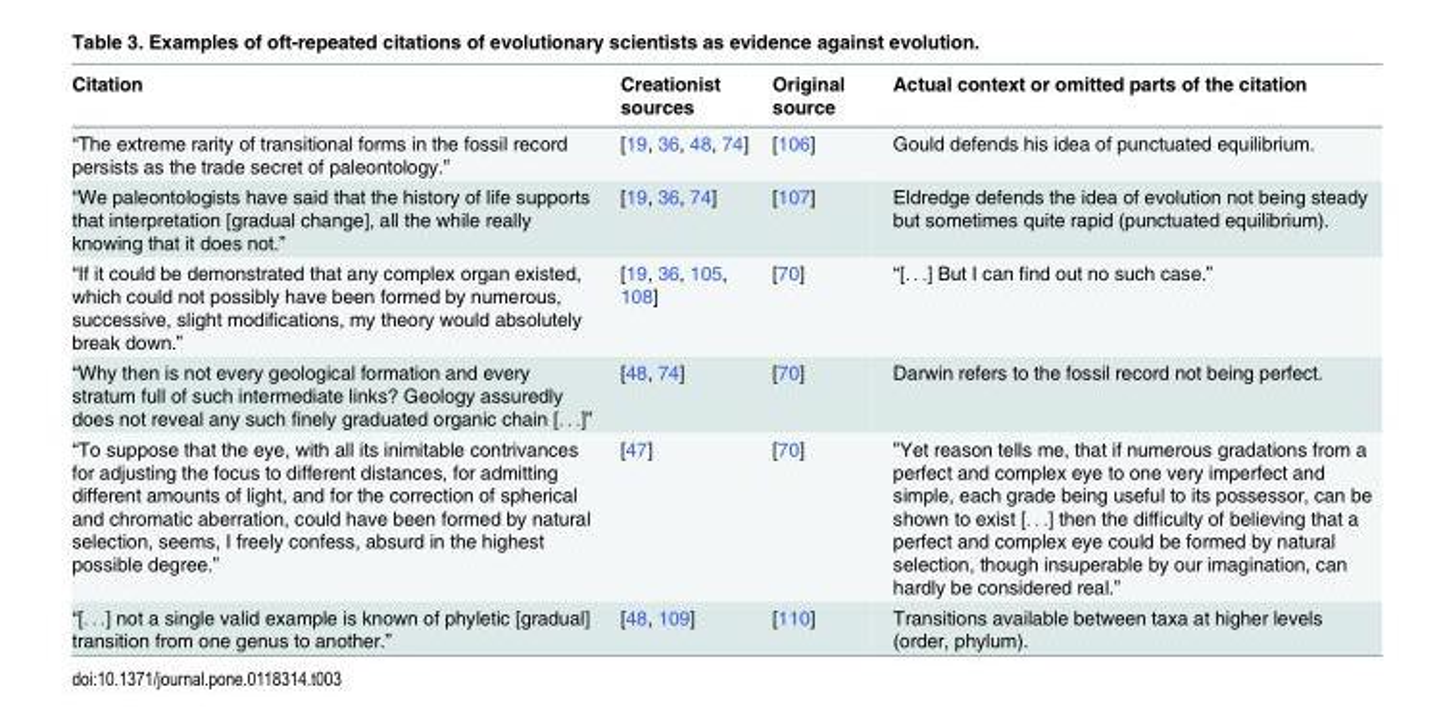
<table><thead><tr><td>Citation</td><td>Creationist sources</td><td>Original source</td><td>Actual context or omitted parts of the citation</td></tr></thead><tbody><tr><td>“The extreme rarity of transitional forms in the fossil record persists as the trade secret of paleontology.”</td><td>[19, 36, 48, 74]</td><td>[106]</td><td>Gould defends his idea of punctuated equilibrium.</td></tr><tr><td>“We paleontologists have said that the history of life supports that interpretation [gradual change], all the while really knowing that it does not.”</td><td>[19, 36, 74]</td><td>[107]</td><td>Eldredge defends the idea of evolution not being steady but sometimes quite rapid (punctuated equilibrium).</td></tr><tr><td>“If it could be demonstrated that any complex organ existed, which could not possibly have been formed by numerous, successive, slight modifications, my theory would absolutely break down.”</td><td>[19, 36, 105, 108]</td><td>[70]</td><td>“[. . .] But I can find out no such case.”</td></tr><tr><td>“Why then is not every geological formation and every stratum full of such intermediate links? Geology assuredly does not reveal any such finely graduated organic chain [. . .]”</td><td>[48, 74]</td><td>[70]</td><td>Darwin refers to the fossil record not being perfect.</td></tr><tr><td>“To suppose that the eye, with all its inimitable contrivances for adjusting the focus to different distances, for admitting different amounts of light, and for the correction of spherical and chromatic aberration, could have been formed by natural selection, seems, I freely confess, absurd in the highest possible degree.”</td><td>[47]</td><td>[70]</td><td>”Yet reason tells me, that if numerous gradations from a perfect and complex eye to one very imperfect and simple, each grade being useful to its possessor, can be shown to exist [. . .] then the difficulty of believing that a perfect and complex eye could be formed by natural selection, though insuperable by our imagination, can hardly be considered real.”</td></tr><tr><td>“[. . .] not a single valid example is known of phyletic [gradual] transition from one genus to another.”</td><td>[48, 109]</td><td>[110]</td><td>Transitions available between taxa at higher levels (order, phylum).</td></tr></tbody></table>